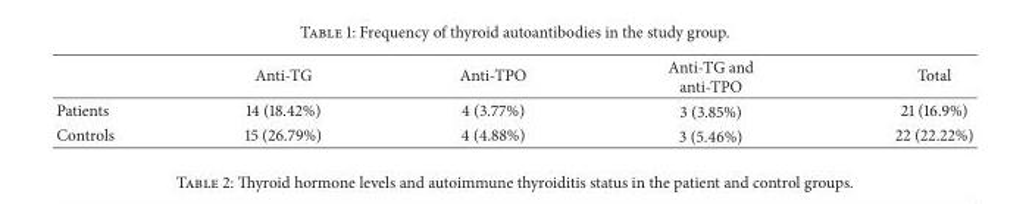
<table><thead><tr><td></td><td>Anti-TG</td><td>Anti-TPO</td><td>Anti-TG and anti-TPO</td><td>Total</td></tr></thead><tbody><tr><td>Patients</td><td>14 (18.42%)</td><td>4 (3.77%)</td><td>3 (3.85%)</td><td>21 (16.9%)</td></tr><tr><td>Controls</td><td>15 (26.79%)</td><td>4 (4.88%)</td><td>3 (5.46%)</td><td>22 (22.22%)</td></tr></tbody></table>